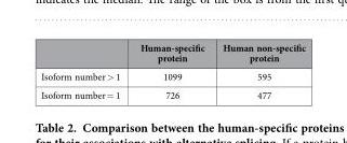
<table><thead><tr><td></td><td>Human-specific protein</td><td>Human non-specific protein</td></tr></thead><tbody><tr><td>Isoform number &gt; 1</td><td>1099</td><td>595</td></tr><tr><td>Isoform number = 1</td><td>726</td><td>477</td></tr></tbody></table>